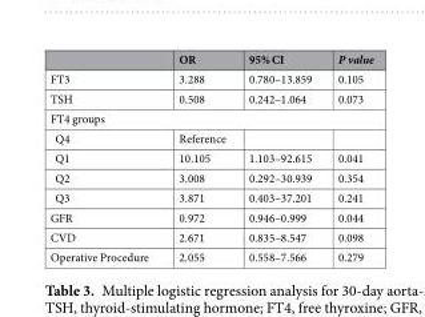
<table><thead><tr><td></td><td>OR</td><td>95% CI</td><td>P value</td></tr></thead><tbody><tr><td>FT3</td><td>3.288</td><td>0.780–13.859</td><td>0.105</td></tr><tr><td>TSH</td><td>0.508</td><td>0.242–1.064</td><td>0.073</td></tr><tr><td colspan="4">FT4 groups</td></tr><tr><td>Q4</td><td>Reference</td><td></td><td></td></tr><tr><td>Q1</td><td>10.105</td><td>1.103–92.615</td><td>0.041</td></tr><tr><td>Q2</td><td>3.008</td><td>0.292–30.939</td><td>0.354</td></tr><tr><td>Q3</td><td>3.871</td><td>0.403–37.201</td><td>0.241</td></tr><tr><td>GFR</td><td>0.972</td><td>0.946–0.999</td><td>0.044</td></tr><tr><td>CVD</td><td>2.671</td><td>0.835–8.547</td><td>0.098</td></tr><tr><td>Operative Procedure</td><td>2.055</td><td>0.558–7.566</td><td>0.279</td></tr></tbody></table>